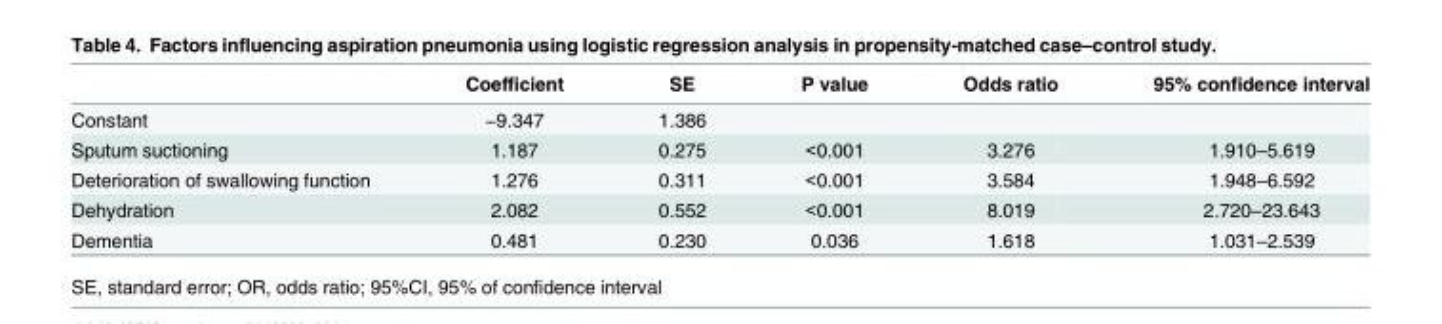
<table><thead><tr><td></td><td>Coefficient</td><td>SE</td><td>P value</td><td>Odds ratio</td><td>95% confidence interval</td></tr></thead><tbody><tr><td>Constant</td><td>−9.347</td><td>1.386</td><td></td><td></td><td></td></tr><tr><td>Sputum suctioning</td><td>1.187</td><td>0.275</td><td>&lt;0.001</td><td>3.276</td><td>1.910–5.619</td></tr><tr><td>Deterioration of swallowing function</td><td>1.276</td><td>0.311</td><td>&lt;0.001</td><td>3.584</td><td>1.948–6.592</td></tr><tr><td>Dehydration</td><td>2.082</td><td>0.552</td><td>&lt;0.001</td><td>8.019</td><td>2.720–23.643</td></tr><tr><td>Dementia</td><td>0.481</td><td>0.230</td><td>0.036</td><td>1.618</td><td>1.031–2.539</td></tr></tbody></table>